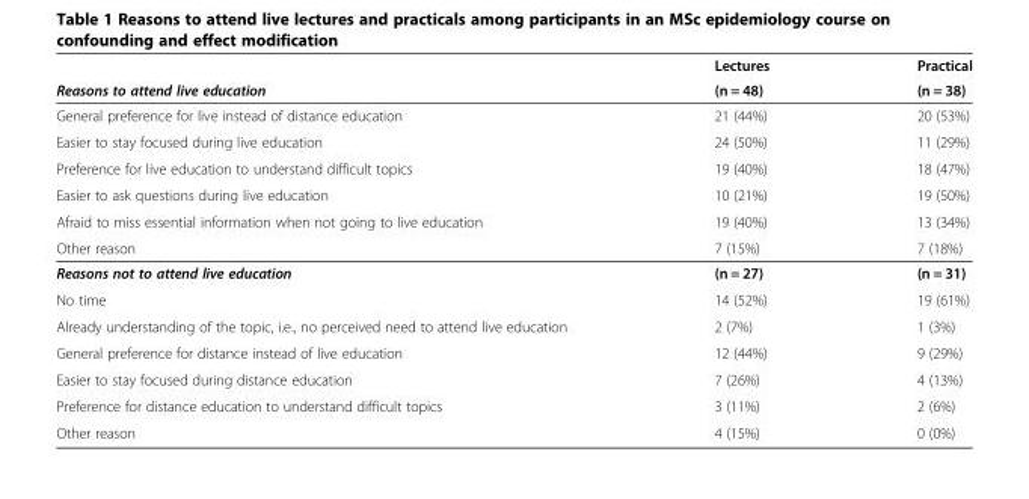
<table><thead><tr><td rowspan="2">Reasons to attend live education</td><td rowspan="2">Lectures (n = 48)</td><td rowspan="2">Practical (n = 38)</td></tr><tr></tr></thead><tbody><tr><td>General preference for live instead of distance education</td><td>21 (44%)</td><td>20 (53%)</td></tr><tr><td>Easier to stay focused during live education</td><td>24 (50%)</td><td>11 (29%)</td></tr><tr><td>Preference for live education to understand difficult topics</td><td>19 (40%)</td><td>18 (47%)</td></tr><tr><td>Easier to ask questions during live education</td><td>10 (21%)</td><td>19 (50%)</td></tr><tr><td>Afraid to miss essential information when not going to live education</td><td>19 (40%)</td><td>13 (34%)</td></tr><tr><td>Other reason</td><td>7 (15%)</td><td>7 (18%)</td></tr><tr><td>Reasons not to attend live education</td><td>(n = 27)</td><td>(n = 31)</td></tr><tr><td>No time</td><td>14 (52%)</td><td>19 (61%)</td></tr><tr><td>Already understanding of the topic, i.e., no perceived need to attend live education</td><td>2 (7%)</td><td>1 (3%)</td></tr><tr><td>General preference for distance instead of live education</td><td>12 (44%)</td><td>9 (29%)</td></tr><tr><td>Easier to stay focused during distance education</td><td>7 (26%)</td><td>4 (13%)</td></tr><tr><td>Preference for distance education to understand difficult topics</td><td>3 (11%)</td><td>2 (6%)</td></tr><tr><td>Other reason</td><td>4 (15%)</td><td>0 (0%)</td></tr></tbody></table>